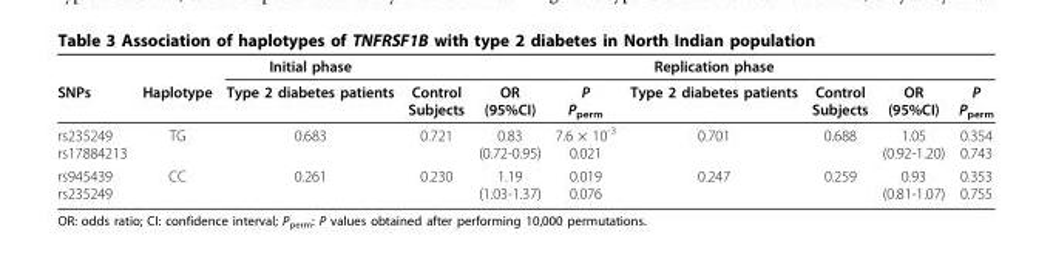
<table><thead><tr><td rowspan="2">SNPs</td><td rowspan="2">Haplotype</td><td rowspan="2">Initial phase Type 2 diabetes patients</td><td rowspan="2">Control Subjects</td><td rowspan="2">OR (95%CI)</td><td rowspan="2">P P<sub>perm</sub></td><td rowspan="2">Replication phase Type 2 diabetes patients</td><td rowspan="2">Control Subjects</td><td rowspan="2">OR (95%CI)</td><td rowspan="2">P P<sub>perm</sub></td></tr><tr></tr></thead><tbody><tr><td>rs235249 rs17884213</td><td>TG</td><td>0.683</td><td>0.721</td><td>0.83 (0.72-0.95)</td><td>7.6 × 10<sup>-3</sup> 0.021</td><td>0.701</td><td>0.688</td><td>1.05 (0.92-1.20)</td><td>0.354 0.743</td></tr><tr><td>rs945439 rs235249</td><td>CC</td><td>0.261</td><td>0.230</td><td>1.19 (1.03-1.37)</td><td>0.019 0.076</td><td>0.247</td><td>0.259</td><td>0.93 (0.81-1.07)</td><td>0.353 0.755</td></tr></tbody></table>